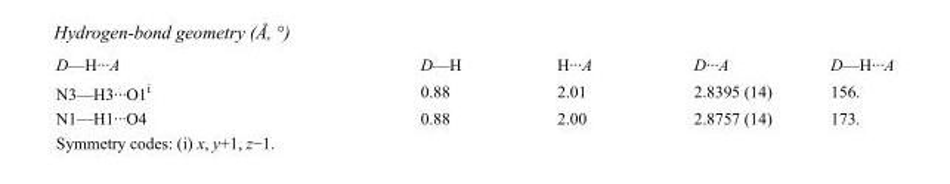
<table><tbody><tr><td>D—H···A</td><td>D—H</td><td>H···A</td><td>D···A</td><td>D—H···A</td></tr><tr><td>N3—H3···O1<sup>i</sup></td><td>0.88</td><td>2.01</td><td>2.8395 (14)</td><td>156.</td></tr><tr><td>N1—H1···O4</td><td>0.88</td><td>2.00</td><td>2.8757 (14)</td><td>173.</td></tr></tbody></table>